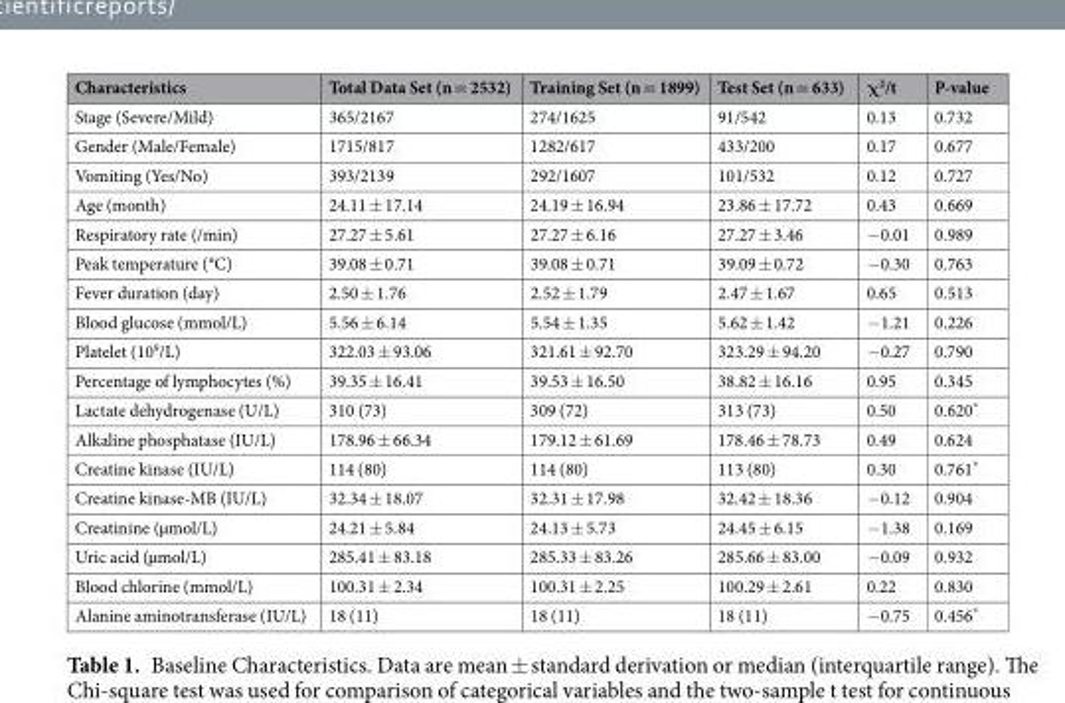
<table><thead><tr><td>Characteristics</td><td>Total Data Set (n = 2532)</td><td>Training Set (n = 1899)</td><td>Test Set (n = 633)</td><td>χ<sup>2</sup>/t</td><td>P-value</td></tr></thead><tbody><tr><td>Stage (Severe/Mild)</td><td>365/2167</td><td>274/1625</td><td>91/542</td><td>0.13</td><td>0.732</td></tr><tr><td>Gender (Male/Female)</td><td>1715/817</td><td>1282/617</td><td>433/200</td><td>0.17</td><td>0.677</td></tr><tr><td>Vomiting (Yes/No)</td><td>393/2139</td><td>292/1607</td><td>101/532</td><td>0.12</td><td>0.727</td></tr><tr><td>Age (month)</td><td>24.11 ± 17.14</td><td>24.19 ± 16.94</td><td>23.86 ± 17.72</td><td>0.43</td><td>0.669</td></tr><tr><td>Respiratory rate (/min)</td><td>27.27 ± 5.61</td><td>27.27 ± 6.16</td><td>27.27 ± 3.46</td><td>−0.01</td><td>0.989</td></tr><tr><td>Peak temperature (°C)</td><td>39.08 ± 0.71</td><td>39.08 ± 0.71</td><td>39.09 ± 0.72</td><td>−0.30</td><td>0.763</td></tr><tr><td>Fever duration (day)</td><td>2.50 ± 1.76</td><td>2.52 ± 1.79</td><td>2.47 ± 1.67</td><td>0.65</td><td>0.513</td></tr><tr><td>Blood glucose (mmol/L)</td><td>5.56 ± 6.14</td><td>5.54 ± 1.35</td><td>5.62 ± 1.42</td><td>−1.21</td><td>0.226</td></tr><tr><td>Platelet (10<sup>9</sup>/L)</td><td>322.03 ± 93.06</td><td>321.61 ± 92.70</td><td>323.29 ± 94.20</td><td>−0.27</td><td>0.790</td></tr><tr><td>Percentage of lymphocytes (%)</td><td>39.35 ± 16.41</td><td>39.53 ± 16.50</td><td>38.82 ± 16.16</td><td>0.95</td><td>0.345</td></tr><tr><td>Lactate dehydrogenase (U/L)</td><td>310 (73)</td><td>309 (72)</td><td>313 (73)</td><td>0.50</td><td>0.620*</td></tr><tr><td>Alkaline phosphatase (IU/L)</td><td>178.96 ± 66.34</td><td>179.12 ± 61.69</td><td>178.46 ± 78.73</td><td>0.49</td><td>0.624</td></tr><tr><td>Creatine kinase (IU/L)</td><td>114 (80)</td><td>114 (80)</td><td>113 (80)</td><td>0.30</td><td>0.761*</td></tr><tr><td>Creatine kinase-MB (IU/L)</td><td>32.34 ± 18.07</td><td>32.31 ± 17.98</td><td>32.42 ± 18.36</td><td>−0.12</td><td>0.904</td></tr><tr><td>Creatinine (µmol/L)</td><td>24.21 ± 5.84</td><td>24.13 ± 5.73</td><td>24.45 ± 6.15</td><td>−1.38</td><td>0.169</td></tr><tr><td>Uric acid (µmol/L)</td><td>285.41 ± 83.18</td><td>285.33 ± 83.26</td><td>285.66 ± 83.00</td><td>−0.09</td><td>0.932</td></tr><tr><td>Blood chlorine (mmol/L)</td><td>100.31 ± 2.34</td><td>100.31 ± 2.25</td><td>100.29 ± 2.61</td><td>0.22</td><td>0.830</td></tr><tr><td>Alanine aminotransferase (IU/L)</td><td>18 (11)</td><td>18 (11)</td><td>18 (11)</td><td>−0.75</td><td>0.456*</td></tr></tbody></table>